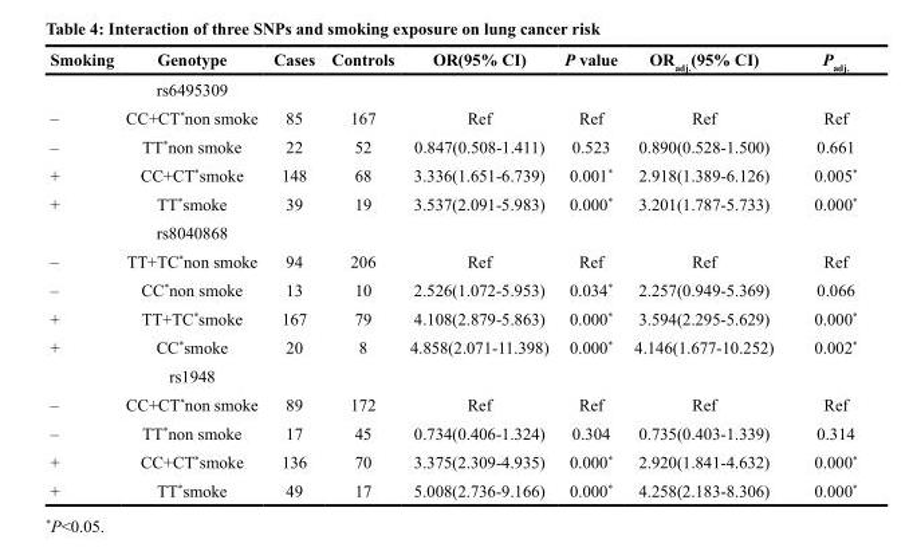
<table><thead><tr><td>Smoking</td><td>Genotype</td><td>Cases</td><td>Controls</td><td>OR(95% CI)</td><td>P value</td><td>OR<sub>adj.</sub>(95% CI)</td><td>P<sub>adj.</sub></td></tr></thead><tbody><tr><td></td><td>rs6495309</td><td></td><td></td><td></td><td></td><td></td><td></td></tr><tr><td>–</td><td>CC+CT*non smoke</td><td>85</td><td>167</td><td>Ref</td><td>Ref</td><td>Ref</td><td>Ref</td></tr><tr><td>–</td><td>TT*non smoke</td><td>22</td><td>52</td><td>0.847(0.508-1.411)</td><td>0.523</td><td>0.890(0.528-1.500)</td><td>0.661</td></tr><tr><td>+</td><td>CC+CT*smoke</td><td>148</td><td>68</td><td>3.336(1.651-6.739)</td><td>0.001*</td><td>2.918(1.389-6.126)</td><td>0.005*</td></tr><tr><td rowspan="2">+</td><td>TT*smoke</td><td>39</td><td>19</td><td>3.537(2.091-5.983)</td><td>0.000*</td><td>3.201(1.787-5.733)</td><td>0.000*</td></tr><tr><td>rs8040868</td><td></td><td></td><td></td><td></td><td></td><td></td></tr><tr><td>–</td><td>TT+TC*non smoke</td><td>94</td><td>206</td><td>Ref</td><td>Ref</td><td>Ref</td><td>Ref</td></tr><tr><td>–</td><td>CC*non smoke</td><td>13</td><td>10</td><td>2.526(1.072-5.953)</td><td>0.034*</td><td>2.257(0.949-5.369)</td><td>0.066</td></tr><tr><td>+</td><td>TT+TC*smoke</td><td>167</td><td>79</td><td>4.108(2.879-5.863)</td><td>0.000*</td><td>3.594(2.295-5.629)</td><td>0.000*</td></tr><tr><td rowspan="2">+</td><td>CC*smoke</td><td>20</td><td>8</td><td>4.858(2.071-11.398)</td><td>0.000*</td><td>4.146(1.677-10.252)</td><td>0.002*</td></tr><tr><td>rs1948</td><td></td><td></td><td></td><td></td><td></td><td></td></tr><tr><td>–</td><td>CC+CT*non smoke</td><td>89</td><td>172</td><td>Ref</td><td>Ref</td><td>Ref</td><td>Ref</td></tr><tr><td>–</td><td>TT*non smoke</td><td>17</td><td>45</td><td>0.734(0.406-1.324)</td><td>0.304</td><td>0.735(0.403-1.339)</td><td>0.314</td></tr><tr><td>+</td><td>CC+CT*smoke</td><td>136</td><td>70</td><td>3.375(2.309-4.935)</td><td>0.000*</td><td>2.920(1.841-4.632)</td><td>0.000*</td></tr><tr><td>+</td><td>TT*smoke</td><td>49</td><td>17</td><td>5.008(2.736-9.166)</td><td>0.000*</td><td>4.258(2.183-8.306)</td><td>0.000*</td></tr></tbody></table>